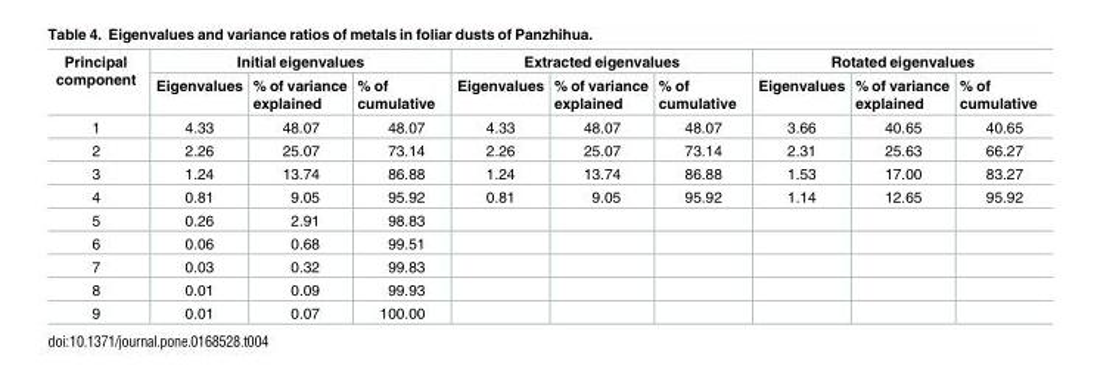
<table><thead><tr><td rowspan="2">Principal component</td><td colspan="3">Initial eigenvalues</td><td colspan="3">Extracted eigenvalues</td><td colspan="3">Rotated eigenvalues</td></tr><tr><td>Eigenvalues</td><td>% of variance explained</td><td>% of cumulative</td><td>Eigenvalues</td><td>% of variance explained</td><td>% of cumulative</td><td>Eigenvalues</td><td>% of variance explained</td><td>% of cumulative</td></tr></thead><tbody><tr><td>1</td><td>4.33</td><td>48.07</td><td>48.07</td><td>4.33</td><td>48.07</td><td>48.07</td><td>3.66</td><td>40.65</td><td>40.65</td></tr><tr><td>2</td><td>2.26</td><td>25.07</td><td>73.14</td><td>2.26</td><td>25.07</td><td>73.14</td><td>2.31</td><td>25.63</td><td>66.27</td></tr><tr><td>3</td><td>1.24</td><td>13.74</td><td>86.88</td><td>1.24</td><td>13.74</td><td>86.88</td><td>1.53</td><td>17.00</td><td>83.27</td></tr><tr><td>4</td><td>0.81</td><td>9.05</td><td>95.92</td><td>0.81</td><td>9.05</td><td>95.92</td><td>1.14</td><td>12.65</td><td>95.92</td></tr><tr><td>5</td><td>0.26</td><td>2.91</td><td>98.83</td><td></td><td></td><td></td><td></td><td></td><td></td></tr><tr><td>6</td><td>0.06</td><td>0.68</td><td>99.51</td><td></td><td></td><td></td><td></td><td></td><td></td></tr><tr><td>7</td><td>0.03</td><td>0.32</td><td>99.83</td><td></td><td></td><td></td><td></td><td></td><td></td></tr><tr><td>8</td><td>0.01</td><td>0.09</td><td>99.93</td><td></td><td></td><td></td><td></td><td></td><td></td></tr><tr><td>9</td><td>0.01</td><td>0.07</td><td>100.00</td><td></td><td></td><td></td><td></td><td></td><td></td></tr></tbody></table>